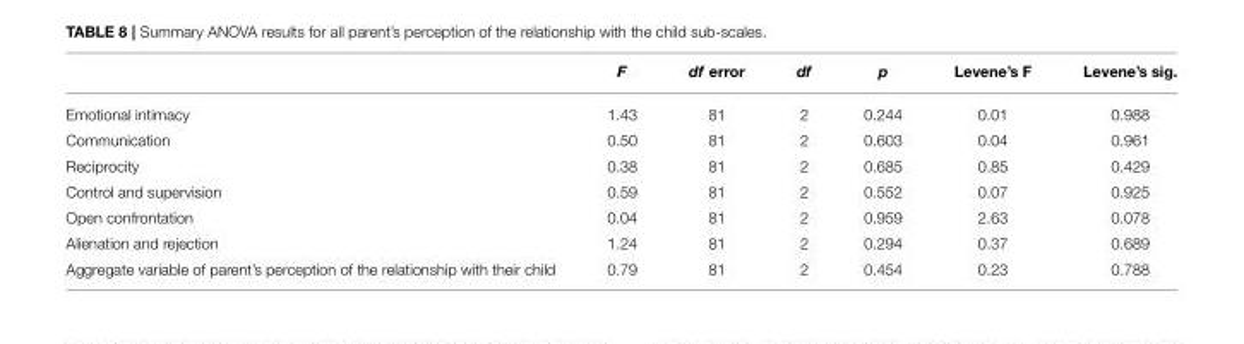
<table><thead><tr><td></td><td>F</td><td>df error</td><td>df</td><td>p</td><td>Levene’s F</td><td>Levene’s sig.</td></tr></thead><tbody><tr><td>Emotional intimacy</td><td>1.43</td><td>81</td><td>2</td><td>0.244</td><td>0.01</td><td>0.988</td></tr><tr><td>Communication</td><td>0.50</td><td>81</td><td>2</td><td>0.603</td><td>0.04</td><td>0.961</td></tr><tr><td>Reciprocity</td><td>0.38</td><td>81</td><td>2</td><td>0.685</td><td>0.85</td><td>0.429</td></tr><tr><td>Control and supervision</td><td>0.59</td><td>81</td><td>2</td><td>0.552</td><td>0.07</td><td>0.925</td></tr><tr><td>Open confrontation</td><td>0.04</td><td>81</td><td>2</td><td>0.959</td><td>2.63</td><td>0.078</td></tr><tr><td>Alienation and rejection</td><td>1.24</td><td>81</td><td>2</td><td>0.294</td><td>0.37</td><td>0.689</td></tr><tr><td>Aggregate variable of parent’s perception of the relationship with their child</td><td>0.79</td><td>81</td><td>2</td><td>0.454</td><td>0.23</td><td>0.788</td></tr></tbody></table>